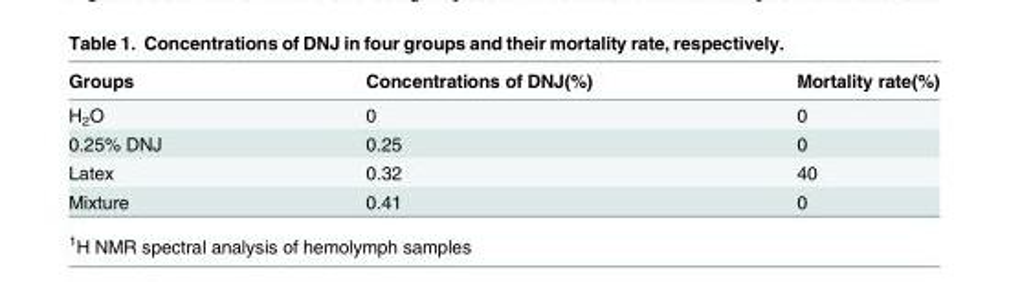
<table><thead><tr><td>Groups</td><td>Concentrations of DNJ(%)</td><td>Mortality rate(%)</td></tr></thead><tbody><tr><td>H<sub>2</sub>O</td><td>0</td><td>0</td></tr><tr><td>0.25% DNJ</td><td>0.25</td><td>0</td></tr><tr><td>Latex</td><td>0.32</td><td>40</td></tr><tr><td>Mixture</td><td>0.41</td><td>0</td></tr></tbody></table>